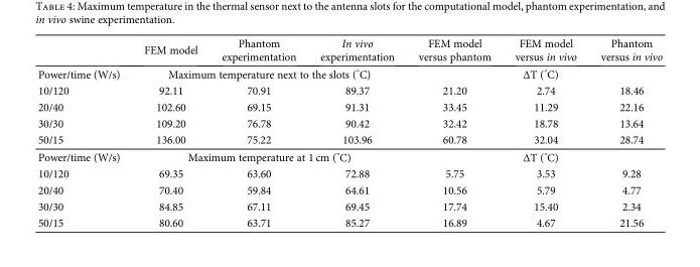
<table><thead><tr><td></td><td>FEM model</td><td>Phantom experimentation</td><td>In vivo experimentation</td><td>FEM model versus phantom</td><td>FEM model versus in vivo</td><td>Phantom versus in vivo</td></tr></thead><tbody><tr><td>Power/time (W/s)</td><td colspan="3">Maximum temperature next to the slots (°C)</td><td colspan="3">ΔT (°C)</td></tr><tr><td>10/120</td><td>92.11</td><td>70.91</td><td>89.37</td><td>21.20</td><td>2.74</td><td>18.46</td></tr><tr><td>20/40</td><td>102.60</td><td>69.15</td><td>91.31</td><td>33.45</td><td>11.29</td><td>22.16</td></tr><tr><td>30/30</td><td>109.20</td><td>76.78</td><td>90.42</td><td>32.42</td><td>18.78</td><td>13.64</td></tr><tr><td>50/15</td><td>136.00</td><td>75.22</td><td>103.96</td><td>60.78</td><td>32.04</td><td>28.74</td></tr><tr><td>Power/time (W/s)</td><td colspan="3">Maximum temperature at 1 cm (°C)</td><td colspan="3">ΔT (°C)</td></tr><tr><td>10/120</td><td>69.35</td><td>63.60</td><td>72.88</td><td>5.75</td><td>3.53</td><td>9.28</td></tr><tr><td>20/40</td><td>70.40</td><td>59.84</td><td>64.61</td><td>10.56</td><td>5.79</td><td>4.77</td></tr><tr><td>30/30</td><td>84.85</td><td>67.11</td><td>69.45</td><td>17.74</td><td>15.40</td><td>2.34</td></tr><tr><td>50/15</td><td>80.60</td><td>63.71</td><td>85.27</td><td>16.89</td><td>4.67</td><td>21.56</td></tr></tbody></table>